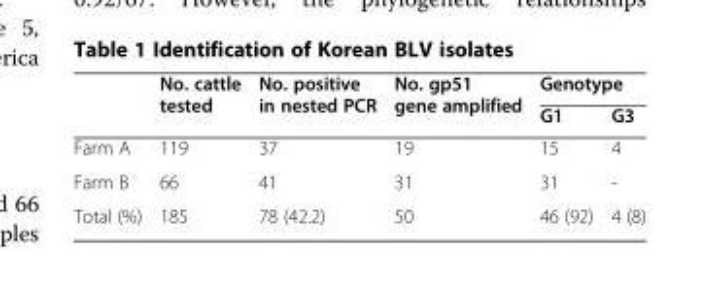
<table><thead><tr><td rowspan="2"></td><td rowspan="2">No. cattle tested</td><td rowspan="2">No. positive in nested PCR</td><td rowspan="2">No. gp51 gene amplified</td><td colspan="2">Genotype</td></tr><tr><td>G1</td><td>G3</td></tr></thead><tbody><tr><td>Farm A</td><td>119</td><td>37</td><td>19</td><td>15</td><td>4</td></tr><tr><td>Farm B</td><td>66</td><td>41</td><td>31</td><td>31</td><td>-</td></tr><tr><td>Total (%)</td><td>185</td><td>78 (42.2)</td><td>50</td><td>46 (92)</td><td>4 (8)</td></tr></tbody></table>